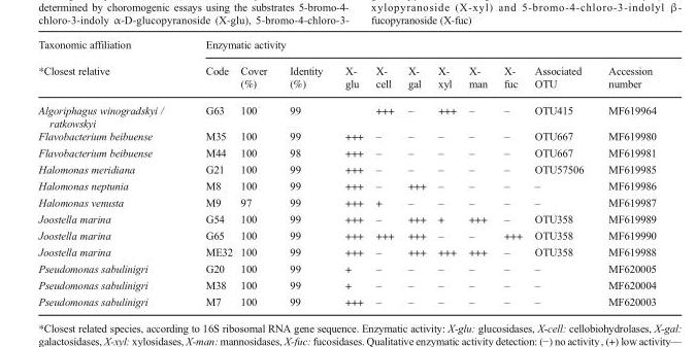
<table><thead><tr><td rowspan="2">Taxonomic affiliation *Closest relative</td><td colspan="11">Enzymatic activity</td></tr><tr><td>Code</td><td>Cover (%)</td><td>Identity (%)</td><td>X- glu</td><td>X- cell</td><td>X- gal</td><td>X- xyl</td><td>X- man</td><td>X- fuc</td><td>Associated OTU</td><td>Accession number</td></tr></thead><tbody><tr><td>Algoriphagus winogradskyi / ratkowskyi</td><td>G63</td><td>100</td><td>99</td><td></td><td>+++</td><td>–</td><td>+++</td><td>–</td><td>–</td><td>OTU415</td><td>MF619964</td></tr><tr><td>Flavobacterium beibuense</td><td>M35</td><td>100</td><td>99</td><td>+++</td><td>–</td><td>–</td><td>–</td><td>–</td><td>–</td><td>OTU667</td><td>MF619980</td></tr><tr><td>Flavobacterium beibuense</td><td>M44</td><td>100</td><td>98</td><td>+++</td><td>–</td><td>–</td><td>–</td><td>–</td><td>–</td><td>OTU667</td><td>MF619981</td></tr><tr><td>Halomonas meridiana</td><td>G21</td><td>100</td><td>99</td><td>+++</td><td>–</td><td>–</td><td>–</td><td>–</td><td>–</td><td>OTU57506</td><td>MF619985</td></tr><tr><td>Halomonas neptunia</td><td>M8</td><td>100</td><td>99</td><td>+++</td><td>–</td><td>+++</td><td>–</td><td>–</td><td>–</td><td>–</td><td>MF619986</td></tr><tr><td>Halomonas venusta</td><td>M9</td><td>97</td><td>99</td><td>+++</td><td>+</td><td>–</td><td>–</td><td>–</td><td>–</td><td>–</td><td>MF619987</td></tr><tr><td>Joostella marina</td><td>G54</td><td>100</td><td>99</td><td>+++</td><td>–</td><td>+++</td><td>+</td><td>+++</td><td>–</td><td>OTU358</td><td>MF619989</td></tr><tr><td>Joostella marina</td><td>G65</td><td>100</td><td>99</td><td>+++</td><td>+++</td><td>+++</td><td>–</td><td>–</td><td>+++</td><td>OTU358</td><td>MF619990</td></tr><tr><td>Joostella marina</td><td>ME32</td><td>100</td><td>99</td><td>+++</td><td>–</td><td>+++</td><td>+++</td><td>+++</td><td>–</td><td>OTU358</td><td>MF619988</td></tr><tr><td>Pseudomonas sabulinigri</td><td>G20</td><td>100</td><td>99</td><td>+</td><td>–</td><td>–</td><td>–</td><td>–</td><td>–</td><td>–</td><td>MF620005</td></tr><tr><td>Pseudomonas sabulinigri</td><td>M38</td><td>100</td><td>99</td><td>+</td><td>–</td><td>–</td><td>–</td><td>–</td><td>–</td><td>–</td><td>MF620004</td></tr><tr><td>Pseudomonas sabulinigri</td><td>M7</td><td>100</td><td>99</td><td>+++</td><td>–</td><td>–</td><td>–</td><td>–</td><td>–</td><td>–</td><td>MF620003</td></tr></tbody></table>